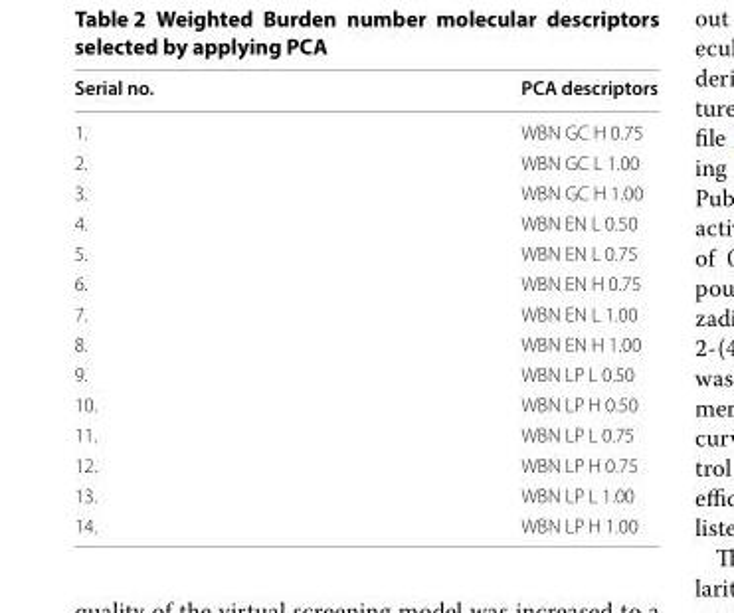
<table><thead><tr><td>Serial no.</td><td>PCA descriptors</td></tr></thead><tbody><tr><td>1.</td><td>WBN GC H 0.75</td></tr><tr><td>2.</td><td>WBN GC L 1.00</td></tr><tr><td>3.</td><td>WBN GC H 1.00</td></tr><tr><td>4.</td><td>WBN EN L 0.50</td></tr><tr><td>5.</td><td>WBN EN L 0.75</td></tr><tr><td>6.</td><td>WBN EN H 0.75</td></tr><tr><td>7.</td><td>WBN EN L 1.00</td></tr><tr><td>8.</td><td>WBN EN H 1.00</td></tr><tr><td>9.</td><td>WBN LP L 0.50</td></tr><tr><td>10.</td><td>WBN LP H 0.50</td></tr><tr><td>11.</td><td>WBN LP L 0.75</td></tr><tr><td>12.</td><td>WBN LP H 0.75</td></tr><tr><td>13.</td><td>WBN LP L 1.00</td></tr><tr><td>14.</td><td>WBN LP H 1.00</td></tr></tbody></table>